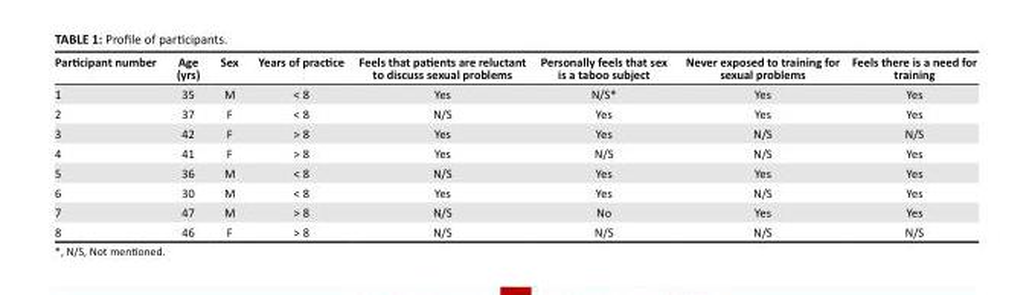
<table><thead><tr><td>Participant number</td><td>Age (yrs)</td><td>Sex</td><td>Years of practice</td><td>Feels that patients are reluctant to discuss sexual problems</td><td>Personally feels that sex is a taboo subject</td><td>Never exposed to training for sexual problems</td><td>Feels there is a need for training</td></tr></thead><tbody><tr><td>1</td><td>35</td><td>M</td><td>&lt; 8</td><td>Yes</td><td>N/S*</td><td>Yes</td><td>Yes</td></tr><tr><td>2</td><td>37</td><td>F</td><td>&lt; 8</td><td>N/S</td><td>Yes</td><td>Yes</td><td>Yes</td></tr><tr><td>3</td><td>42</td><td>F</td><td>&gt; 8</td><td>Yes</td><td>Yes</td><td>N/S</td><td>N/S</td></tr><tr><td>4</td><td>41</td><td>F</td><td>&gt; 8</td><td>Yes</td><td>N/S</td><td>N/S</td><td>Yes</td></tr><tr><td>5</td><td>36</td><td>M</td><td>&lt; 8</td><td>N/S</td><td>Yes</td><td>Yes</td><td>Yes</td></tr><tr><td>6</td><td>30</td><td>M</td><td>&lt; 8</td><td>Yes</td><td>Yes</td><td>N/S</td><td>Yes</td></tr><tr><td>7</td><td>47</td><td>M</td><td>&gt; 8</td><td>N/S</td><td>No</td><td>Yes</td><td>Yes</td></tr><tr><td>8</td><td>46</td><td>F</td><td>&gt; 8</td><td>N/S</td><td>N/S</td><td>N/S</td><td>N/S</td></tr></tbody></table>